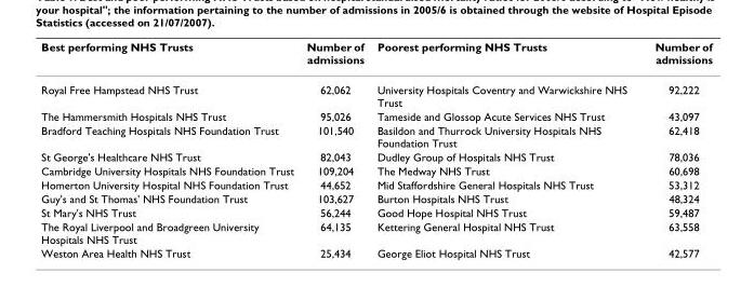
<table><thead><tr><td>Best performing NHS Trusts</td><td>Number of admissions</td><td>Poorest performing NHS Trusts</td><td>Number of admissions</td></tr></thead><tbody><tr><td>Royal Free Hampstead NHS Trust</td><td>62,062</td><td>University Hospitals Coventry and Warwickshire NHS Trust</td><td>92,222</td></tr><tr><td>The Hammersmith Hospitals NHS Trust</td><td>95,026</td><td>Tameside and Glossop Acute Services NHS Trust</td><td>43,097</td></tr><tr><td>Bradford Teaching Hospitals NHS Foundation Trust</td><td>101,540</td><td>Basildon and Thurrock University Hospitals NHS Foundation Trust</td><td>62,418</td></tr><tr><td>St George&#x27;s Healthcare NHS Trust</td><td>82,043</td><td>Dudley Group of Hospitals NHS Trust</td><td>78,036</td></tr><tr><td>Cambridge University Hospitals NHS Foundation Trust</td><td>109,204</td><td>The Medway NHS Trust</td><td>60,698</td></tr><tr><td>Homerton University Hospital NHS Foundation Trust</td><td>44,652</td><td>Mid Staffordshire General Hospitals NHS Trust</td><td>53,312</td></tr><tr><td>Guy&#x27;s and St Thomas&#x27; NHS Foundation Trust</td><td>103,627</td><td>Burton Hospitals NHS Trust</td><td>48,324</td></tr><tr><td>St Mary&#x27;s NHS Trust</td><td>56,244</td><td>Good Hope Hospital NHS Trust</td><td>59,487</td></tr><tr><td>The Royal Liverpool and Broadgreen University Hospitals NHS Trust</td><td>64,135</td><td>Kettering General Hospital NHS Trust</td><td>63,558</td></tr><tr><td>Weston Area Health NHS Trust</td><td>25,434</td><td>George Eliot Hospital NHS Trust</td><td>42,577</td></tr></tbody></table>